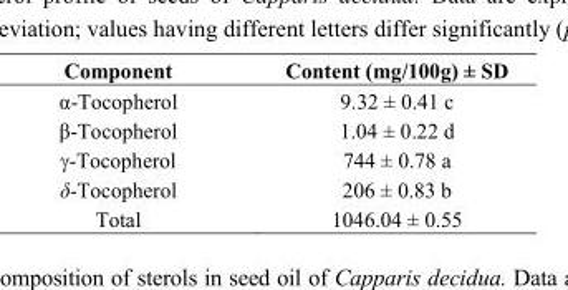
<table><thead><tr><td>Component</td><td>Content (mg/100g) ± SD</td></tr></thead><tbody><tr><td>α-Tocopherol</td><td>9.32 ± 0.41 c</td></tr><tr><td>β-Tocopherol</td><td>1.04 ± 0.22 d</td></tr><tr><td>γ-Tocopherol</td><td>744 ± 0.78 a</td></tr><tr><td>δ-Tocopherol</td><td>206 ± 0.83 b</td></tr><tr><td>Total</td><td>1046.04 ± 0.55</td></tr></tbody></table>